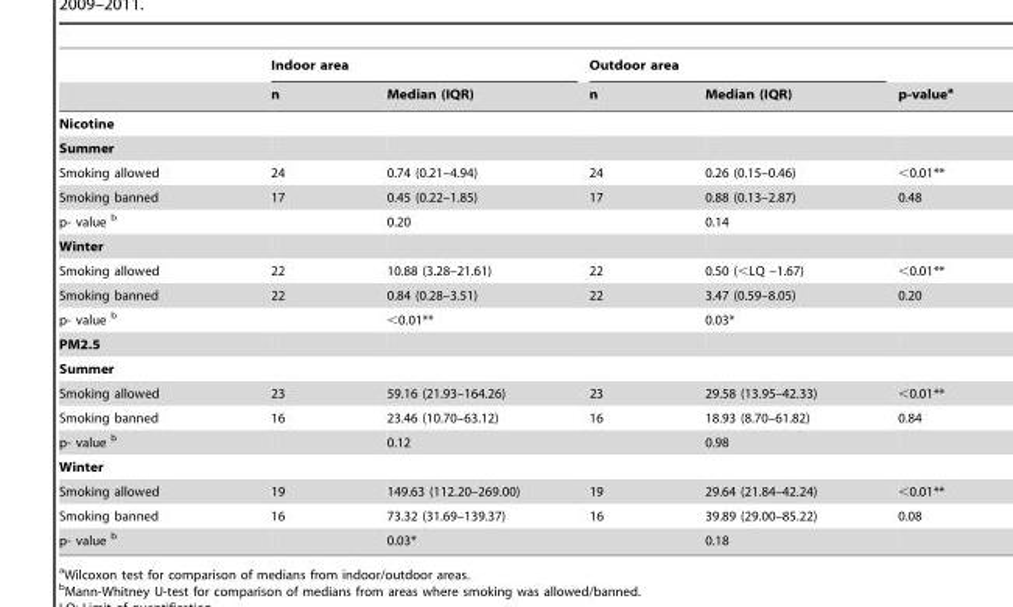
<table><thead><tr><td rowspan="2"></td><td colspan="2">Indoor area</td><td colspan="2">Outdoor area</td><td rowspan="2">p-value<sup>a</sup></td></tr><tr><td>n</td><td>Median (IQR)</td><td>n</td><td>Median (IQR)</td></tr></thead><tbody><tr><td colspan="6">Nicotine</td></tr><tr><td colspan="6">Summer</td></tr><tr><td>Smoking allowed</td><td>24</td><td>0.74 (0.21–4.94)</td><td>24</td><td>0.26 (0.15–0.46)</td><td>&lt;0.01**</td></tr><tr><td>Smoking banned</td><td>17</td><td>0.45 (0.22–1.85)</td><td>17</td><td>0.88 (0.13–2.87)</td><td>0.48</td></tr><tr><td>p- value b</td><td></td><td>0.20</td><td></td><td>0.14</td><td></td></tr><tr><td colspan="6">Winter</td></tr><tr><td>Smoking allowed</td><td>22</td><td>10.88 (3.28–21.61)</td><td>22</td><td>0.50 (&lt;LQ –1.67)</td><td>&lt;0.01**</td></tr><tr><td>Smoking banned</td><td>22</td><td>0.84 (0.28–3.51)</td><td>22</td><td>3.47 (0.59–8.05)</td><td>0.20</td></tr><tr><td>p- value b</td><td></td><td>&lt;0.01**</td><td></td><td>0.03*</td><td></td></tr><tr><td colspan="6">PM2.5</td></tr><tr><td colspan="6">Summer</td></tr><tr><td>Smoking allowed</td><td>23</td><td>59.16 (21.93–164.26)</td><td>23</td><td>29.58 (13.95–42.33)</td><td>&lt;0.01**</td></tr><tr><td>Smoking banned</td><td>16</td><td>23.46 (10.70–63.12)</td><td>16</td><td>18.93 (8.70–61.82)</td><td>0.84</td></tr><tr><td>p- value b</td><td></td><td>0.12</td><td></td><td>0.98</td><td></td></tr><tr><td colspan="6">Winter</td></tr><tr><td>Smoking allowed</td><td>19</td><td>149.63 (112.20–269.00)</td><td>19</td><td>29.64 (21.84–42.24)</td><td>&lt;0.01**</td></tr><tr><td>Smoking banned</td><td>16</td><td>73.32 (31.69–139.37)</td><td>16</td><td>39.89 (29.00–85.22)</td><td>0.08</td></tr><tr><td>p- value b</td><td></td><td>0.03*</td><td></td><td>0.18</td><td></td></tr></tbody></table>